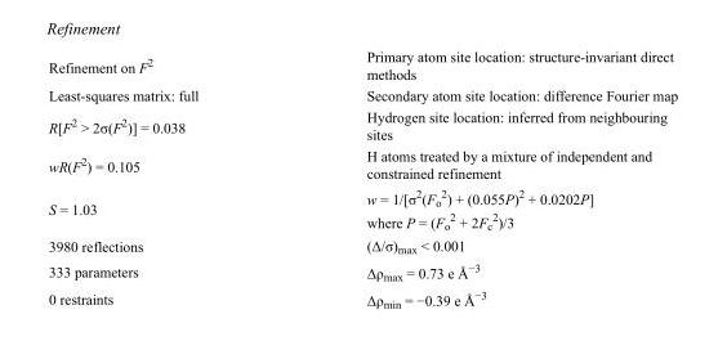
<table><tbody><tr><td>Refinement on F<sup>2</sup></td><td>Primary atom site location: structure-invariant direct methods</td></tr><tr><td>Least-squares matrix: full</td><td>Secondary atom site location: difference Fourier map</td></tr><tr><td>R[F<sup>2</sup> &gt; 2σ(F<sup>2</sup>)] = 0.038</td><td>Hydrogen site location: inferred from neighbouring sites</td></tr><tr><td>wR(F<sup>2</sup>) = 0.105</td><td>H atoms treated by a mixture of independent and constrained refinement</td></tr><tr><td>S = 1.03</td><td>w = 1/[σ<sup>2</sup>(F<sub>o</sub> <sup>2</sup>) + (0.055P)<sup>2</sup> + 0.0202P] where P = (F<sub>o</sub> <sup>2</sup> + 2F<sub>c</sub> <sup>2</sup>)/3</td></tr><tr><td>3980 reflections</td><td>(Δ/σ)<sub>max</sub> &lt; 0.001</td></tr><tr><td>333 parameters</td><td>Δρ<sub>max</sub> = 0.73 e Å<sup>−3</sup></td></tr><tr><td>0 restraints</td><td>Δρ<sub>min</sub> = −0.39 e Å<sup>−3</sup></td></tr></tbody></table>